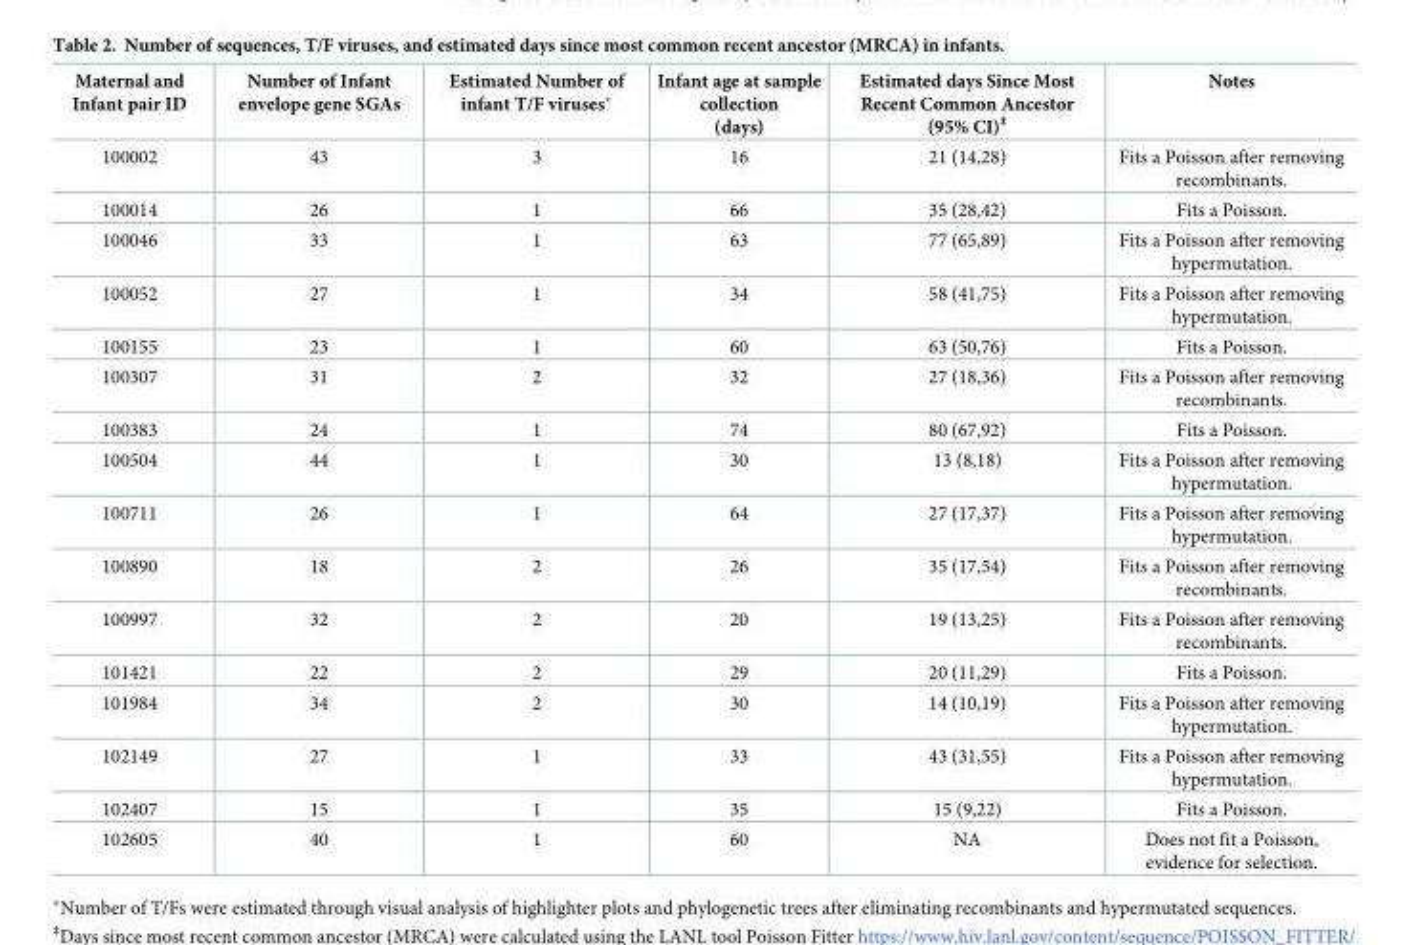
<table><thead><tr><td>Maternal and Infant pair ID</td><td>Number of Infant envelope gene SGAs</td><td>Estimated Number of infant T/F viruses*</td><td>Infant age at sample collection (days)</td><td>Estimated days Since Most Recent Common Ancestor (95% CI)<sup>‡</sup></td><td>Notes</td></tr></thead><tbody><tr><td>100002</td><td>43</td><td>3</td><td>16</td><td>21 (14,28)</td><td>Fits a Poisson after removing recombinants.</td></tr><tr><td>100014</td><td>26</td><td>1</td><td>66</td><td>35 (28,42)</td><td>Fits a Poisson.</td></tr><tr><td>100046</td><td>33</td><td>1</td><td>63</td><td>77 (65,89)</td><td>Fits a Poisson after removing hypermutation.</td></tr><tr><td>100052</td><td>27</td><td>1</td><td>34</td><td>58 (41,75)</td><td>Fits a Poisson after removing hypermutation.</td></tr><tr><td>100155</td><td>23</td><td>1</td><td>60</td><td>63 (50,76)</td><td>Fits a Poisson.</td></tr><tr><td>100307</td><td>31</td><td>2</td><td>32</td><td>27 (18,36)</td><td>Fits a Poisson after removing recombinants.</td></tr><tr><td>100383</td><td>24</td><td>1</td><td>74</td><td>80 (67,92)</td><td>Fits a Poisson.</td></tr><tr><td>100504</td><td>44</td><td>1</td><td>30</td><td>13 (8,18)</td><td>Fits a Poisson after removing hypermutation.</td></tr><tr><td>100711</td><td>26</td><td>1</td><td>64</td><td>27 (17,37)</td><td>Fits a Poisson after removing hypermutation.</td></tr><tr><td>100890</td><td>18</td><td>2</td><td>26</td><td>35 (17,54)</td><td>Fits a Poisson after removing recombinants.</td></tr><tr><td>100997</td><td>32</td><td>2</td><td>20</td><td>19 (13,25)</td><td>Fits a Poisson after removing recombinants.</td></tr><tr><td>101421</td><td>22</td><td>2</td><td>29</td><td>20 (11,29)</td><td>Fits a Poisson.</td></tr><tr><td>101984</td><td>34</td><td>2</td><td>30</td><td>14 (10,19)</td><td>Fits a Poisson after removing hypermutation.</td></tr><tr><td>102149</td><td>27</td><td>1</td><td>33</td><td>43 (31,55)</td><td>Fits a Poisson after removing hypermutation.</td></tr><tr><td>102407</td><td>15</td><td>1</td><td>35</td><td>15 (9,22)</td><td>Fits a Poisson.</td></tr><tr><td>102605</td><td>40</td><td>1</td><td>60</td><td>NA</td><td>Does not fit a Poisson, evidence for selection.</td></tr></tbody></table>